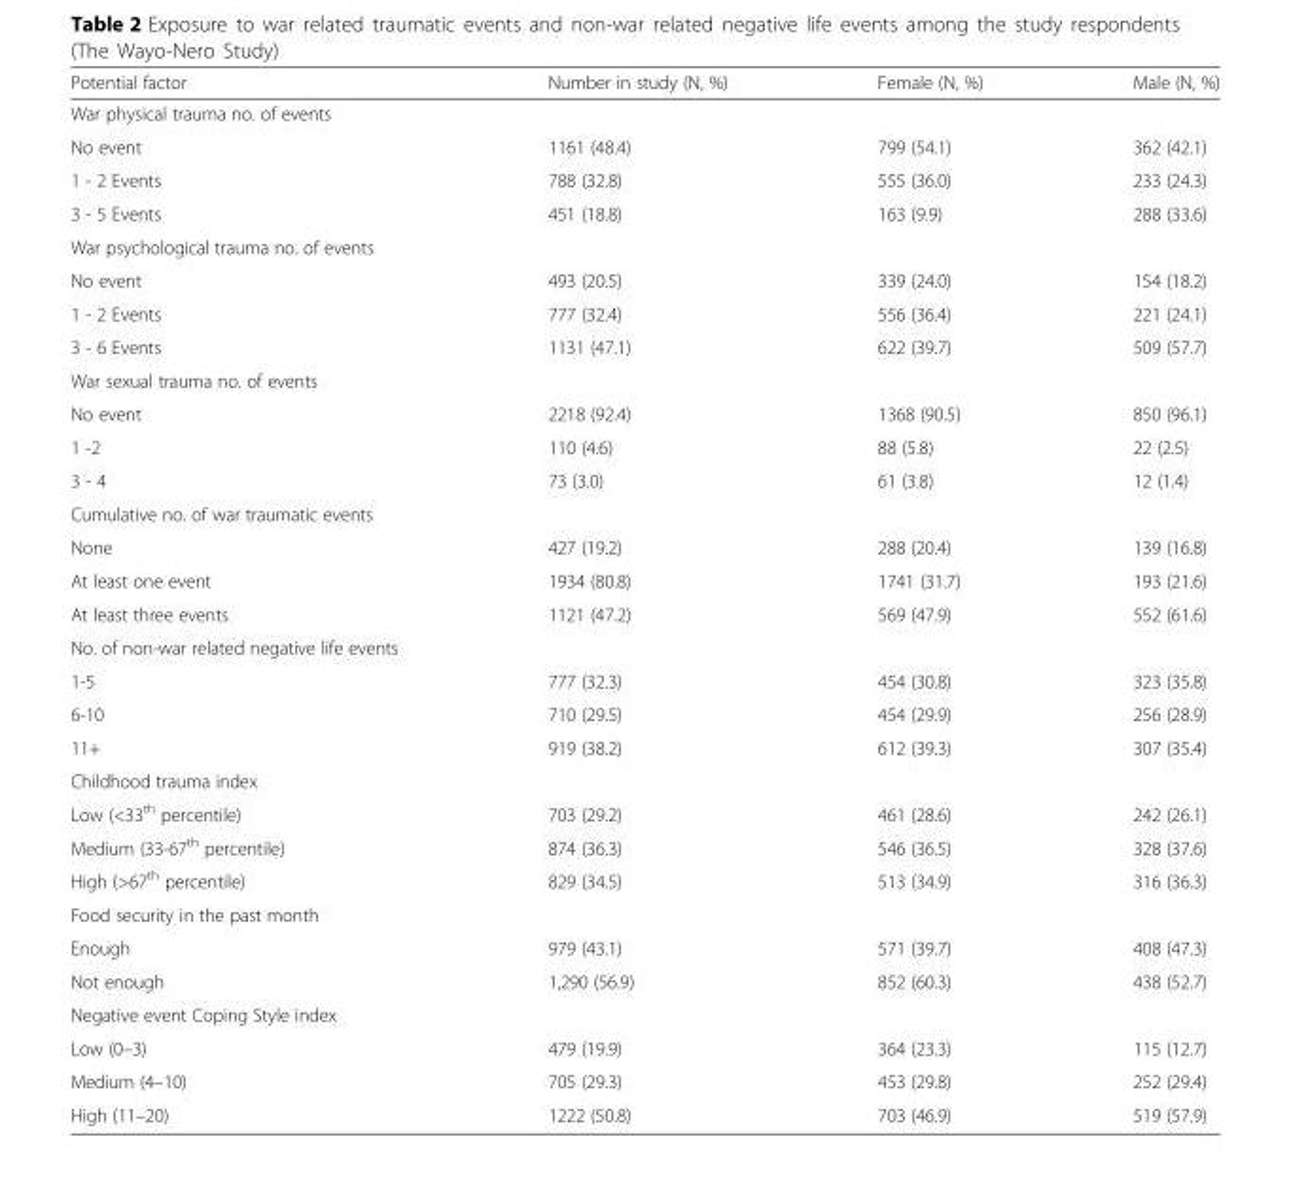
<table><thead><tr><td>Potential factor</td><td>Number in study (N, %)</td><td>Female (N, %)</td><td>Male (N, %)</td></tr></thead><tbody><tr><td colspan="4">War physical trauma no. of events</td></tr><tr><td>No event</td><td>1161 (48.4)</td><td>799 (54.1)</td><td>362 (42.1)</td></tr><tr><td>1 - 2 Events</td><td>788 (32.8)</td><td>555 (36.0)</td><td>233 (24.3)</td></tr><tr><td>3 - 5 Events</td><td>451 (18.8)</td><td>163 (9.9)</td><td>288 (33.6)</td></tr><tr><td colspan="4">War psychological trauma no. of events</td></tr><tr><td>No event</td><td>493 (20.5)</td><td>339 (24.0)</td><td>154 (18.2)</td></tr><tr><td>1 - 2 Events</td><td>777 (32.4)</td><td>556 (36.4)</td><td>221 (24.1)</td></tr><tr><td>3 - 6 Events</td><td>1131 (47.1)</td><td>622 (39.7)</td><td>509 (57.7)</td></tr><tr><td colspan="4">War sexual trauma no. of events</td></tr><tr><td>No event</td><td>2218 (92.4)</td><td>1368 (90.5)</td><td>850 (96.1)</td></tr><tr><td>1 -2</td><td>110 (4.6)</td><td>88 (5.8)</td><td>22 (2.5)</td></tr><tr><td>3 - 4</td><td>73 (3.0)</td><td>61 (3.8)</td><td>12 (1.4)</td></tr><tr><td colspan="4">Cumulative no. of war traumatic events</td></tr><tr><td>None</td><td>427 (19.2)</td><td>288 (20.4)</td><td>139 (16.8)</td></tr><tr><td>At least one event</td><td>1934 (80.8)</td><td>1741 (31.7)</td><td>193 (21.6)</td></tr><tr><td>At least three events</td><td>1121 (47.2)</td><td>569 (47.9)</td><td>552 (61.6)</td></tr><tr><td colspan="4">No. of non-war related negative life events</td></tr><tr><td>1-5</td><td>777 (32.3)</td><td>454 (30.8)</td><td>323 (35.8)</td></tr><tr><td>6-10</td><td>710 (29.5)</td><td>454 (29.9)</td><td>256 (28.9)</td></tr><tr><td>11+</td><td>919 (38.2)</td><td>612 (39.3)</td><td>307 (35.4)</td></tr><tr><td colspan="4">Childhood trauma index</td></tr><tr><td>Low (&lt;33<sup>th</sup> percentile)</td><td>703 (29.2)</td><td>461 (28.6)</td><td>242 (26.1)</td></tr><tr><td>Medium (33-67<sup>th</sup> percentile)</td><td>874 (36.3)</td><td>546 (36.5)</td><td>328 (37.6)</td></tr><tr><td>High (&gt;67<sup>th</sup> percentile)</td><td>829 (34.5)</td><td>513 (34.9)</td><td>316 (36.3)</td></tr><tr><td colspan="4">Food security in the past month</td></tr><tr><td>Enough</td><td>979 (43.1)</td><td>571 (39.7)</td><td>408 (47.3)</td></tr><tr><td>Not enough</td><td>1,290 (56.9)</td><td>852 (60.3)</td><td>438 (52.7)</td></tr><tr><td colspan="4">Negative event Coping Style index</td></tr><tr><td>Low (0–3)</td><td>479 (19.9)</td><td>364 (23.3)</td><td>115 (12.7)</td></tr><tr><td>Medium (4–10)</td><td>705 (29.3)</td><td>453 (29.8)</td><td>252 (29.4)</td></tr><tr><td>High (11–20)</td><td>1222 (50.8)</td><td>703 (46.9)</td><td>519 (57.9)</td></tr></tbody></table>